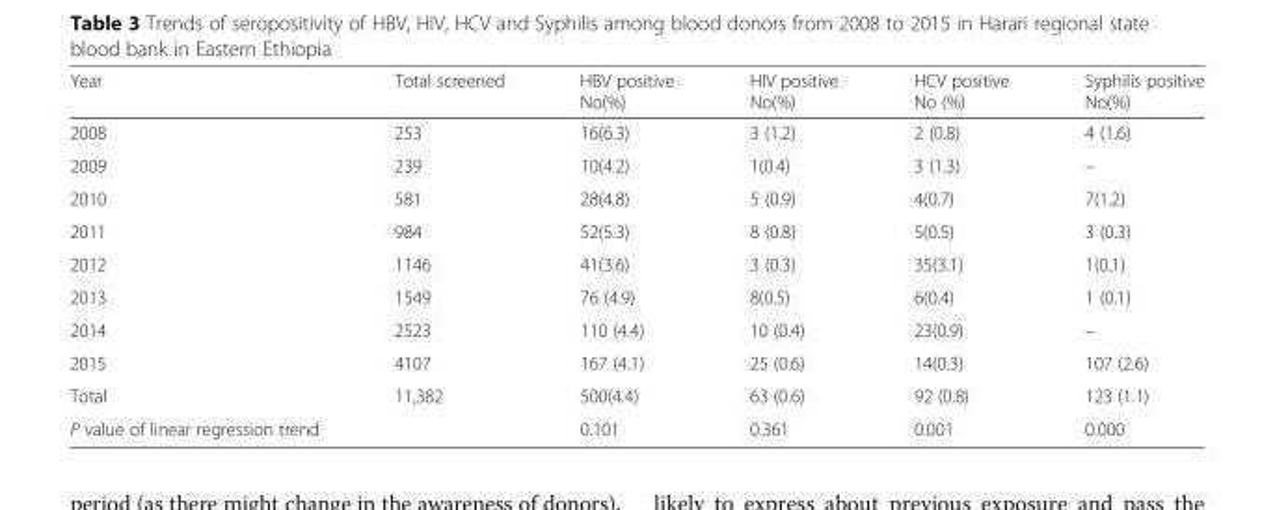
<table><thead><tr><td>Year</td><td>Total screened</td><td>HBV positive No(%)</td><td>HIV positive No(%)</td><td>HCV positive No (%)</td><td>Syphilis positive No(%)</td></tr></thead><tbody><tr><td>2008</td><td>253</td><td>16(6.3)</td><td>3 (1.2)</td><td>2 (0.8)</td><td>4 (1.6)</td></tr><tr><td>2009</td><td>239</td><td>10(4.2)</td><td>1(0.4)</td><td>3 (1.3)</td><td>–</td></tr><tr><td>2010</td><td>581</td><td>28(4.8)</td><td>5 (0.9)</td><td>4(0.7)</td><td>7(1.2)</td></tr><tr><td>2011</td><td>984</td><td>52(5.3)</td><td>8 (0.8)</td><td>5(0.5)</td><td>3 (0.3)</td></tr><tr><td>2012</td><td>1146</td><td>41(3.6)</td><td>3 (0.3)</td><td>35(3.1)</td><td>1(0.1)</td></tr><tr><td>2013</td><td>1549</td><td>76 (4.9)</td><td>8(0.5)</td><td>6(0.4)</td><td>1 (0.1)</td></tr><tr><td>2014</td><td>2523</td><td>110 (4.4)</td><td>10 (0.4)</td><td>23(0.9)</td><td>–</td></tr><tr><td>2015</td><td>4107</td><td>167 (4.1)</td><td>25 (0.6)</td><td>14(0.3)</td><td>107 (2.6)</td></tr><tr><td>Total</td><td>11,382</td><td>500(4.4)</td><td>63 (0.6)</td><td>92 (0.8)</td><td>123 (1.1)</td></tr><tr><td>P value of linear regression trend</td><td></td><td>0.101</td><td>0.361</td><td>0.001</td><td>0.000</td></tr></tbody></table>